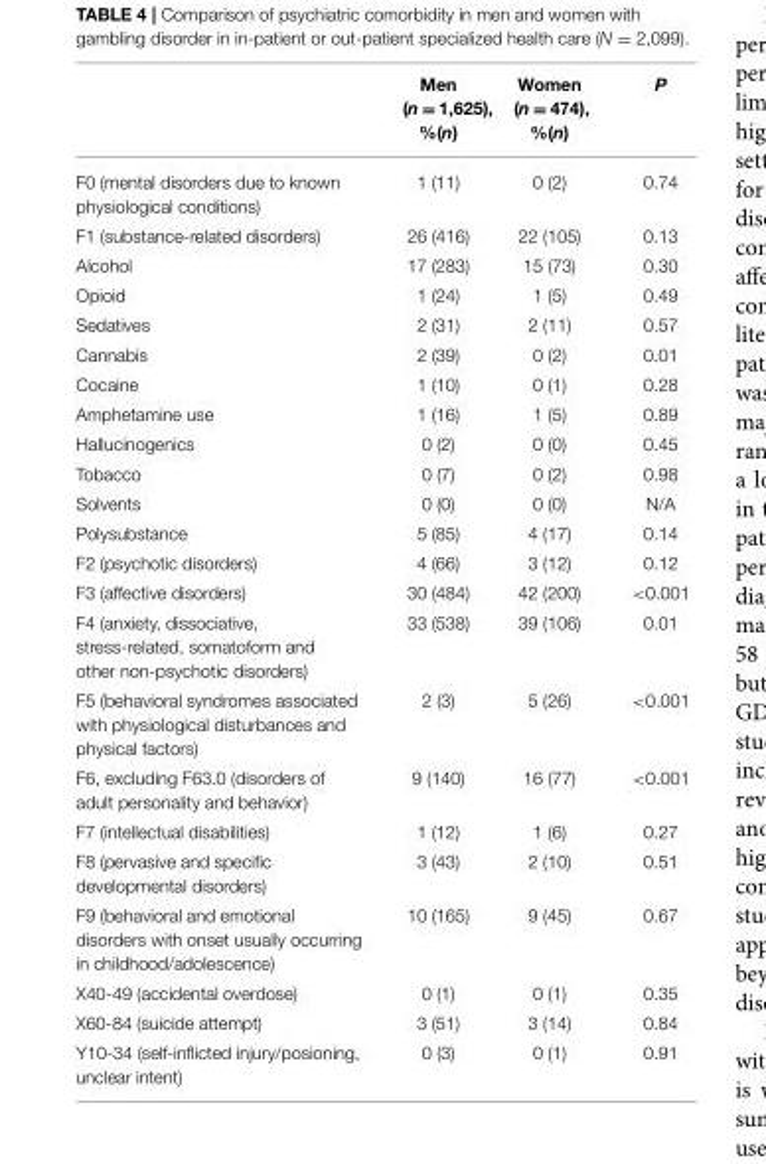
<table><thead><tr><td></td><td>Men (n = 1,625), %(n)</td><td>Women (n = 474), %(n)</td><td>P</td></tr></thead><tbody><tr><td>F0 (mental disorders due to known physiological conditions)</td><td>1 (11)</td><td>0 (2)</td><td>0.74</td></tr><tr><td>F1 (substance-related disorders)</td><td>26 (416)</td><td>22 (105)</td><td>0.13</td></tr><tr><td>Alcohol</td><td>17 (283)</td><td>15 (73)</td><td>0.30</td></tr><tr><td>Opioid</td><td>1 (24)</td><td>1 (5)</td><td>0.49</td></tr><tr><td>Sedatives</td><td>2 (31)</td><td>2 (11)</td><td>0.57</td></tr><tr><td>Cannabis</td><td>2 (39)</td><td>0 (2)</td><td>0.01</td></tr><tr><td>Cocaine</td><td>1 (10)</td><td>0 (1)</td><td>0.28</td></tr><tr><td>Amphetamine use</td><td>1 (16)</td><td>1 (5)</td><td>0.89</td></tr><tr><td>Hallucinogenics</td><td>0 (2)</td><td>0 (0)</td><td>0.45</td></tr><tr><td>Tobacco</td><td>0 (7)</td><td>0 (2)</td><td>0.98</td></tr><tr><td>Solvents</td><td>0 (0)</td><td>0 (0)</td><td>N/A</td></tr><tr><td>Polysubstance</td><td>5 (85)</td><td>4 (17)</td><td>0.14</td></tr><tr><td>F2 (psychotic disorders)</td><td>4 (66)</td><td>3 (12)</td><td>0.12</td></tr><tr><td>F3 (affective disorders)</td><td>30 (484)</td><td>42 (200)</td><td>&lt;0.001</td></tr><tr><td>F4 (anxiety, dissociative, stress-related, somatoform and other non-psychotic disorders)</td><td>33 (538)</td><td>39 (106)</td><td>0.01</td></tr><tr><td>F5 (behavioral syndromes associated with physiological disturbances and physical factors)</td><td>2 (3)</td><td>5 (26)</td><td>&lt;0.001</td></tr><tr><td>F6, excluding F63.0 (disorders of adult personality and behavior)</td><td>9 (140)</td><td>16 (77)</td><td>&lt;0.001</td></tr><tr><td>F7 (intellectual disabilities)</td><td>1 (12)</td><td>1 (6)</td><td>0.27</td></tr><tr><td>F8 (pervasive and specific developmental disorders)</td><td>3 (43)</td><td>2 (10)</td><td>0.51</td></tr><tr><td>F9 (behavioral and emotional disorders with onset usually occurring in childhood/adolescence)</td><td>10 (165)</td><td>9 (45)</td><td>0.67</td></tr><tr><td>X40-49 (accidental overdose)</td><td>0 (1)</td><td>0 (1)</td><td>0.35</td></tr><tr><td>X60-84 (suicide attempt)</td><td>3 (51)</td><td>3 (14)</td><td>0.84</td></tr><tr><td>Y10-34 (self-inflicted injury/posioning, unclear intent)</td><td>0 (3)</td><td>0 (1)</td><td>0.91</td></tr></tbody></table>